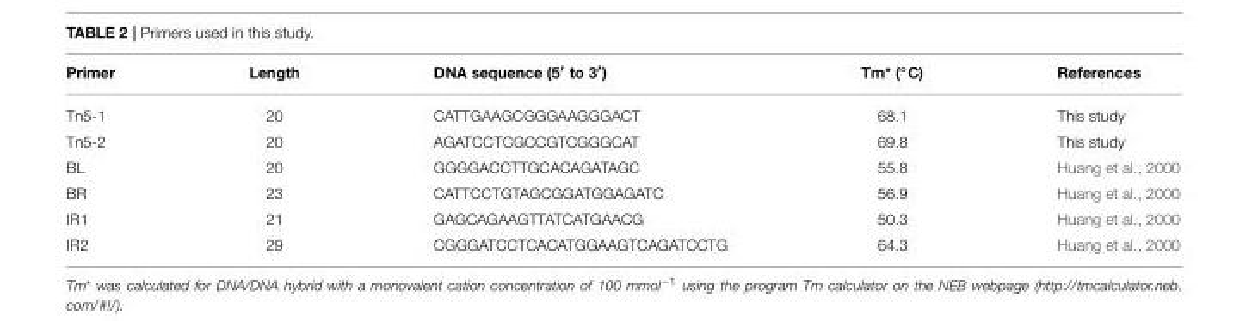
<table><thead><tr><td>Primer</td><td>Length</td><td>DNA sequence (5′ to 3′)</td><td>Tm* (◦C)</td><td>References</td></tr></thead><tbody><tr><td>Tn5-1</td><td>20</td><td>CATTGAAGCGGGAAGGGACT</td><td>68.1</td><td>This study</td></tr><tr><td>Tn5-2</td><td>20</td><td>AGATCCTCGCCGTCGGGCAT</td><td>69.8</td><td>This study</td></tr><tr><td>BL</td><td>20</td><td>GGGGACCTTGCACAGATAGC</td><td>55.8</td><td>Huang et al., 2000</td></tr><tr><td>BR</td><td>23</td><td>CATTCCTGTAGCGGATGGAGATC</td><td>56.9</td><td>Huang et al., 2000</td></tr><tr><td>IR1</td><td>21</td><td>GAGCAGAAGTTATCATGAACG</td><td>50.3</td><td>Huang et al., 2000</td></tr><tr><td>IR2</td><td>29</td><td>CGGGATCCTCACATGGAAGTCAGATCCTG</td><td>64.3</td><td>Huang et al., 2000</td></tr></tbody></table>